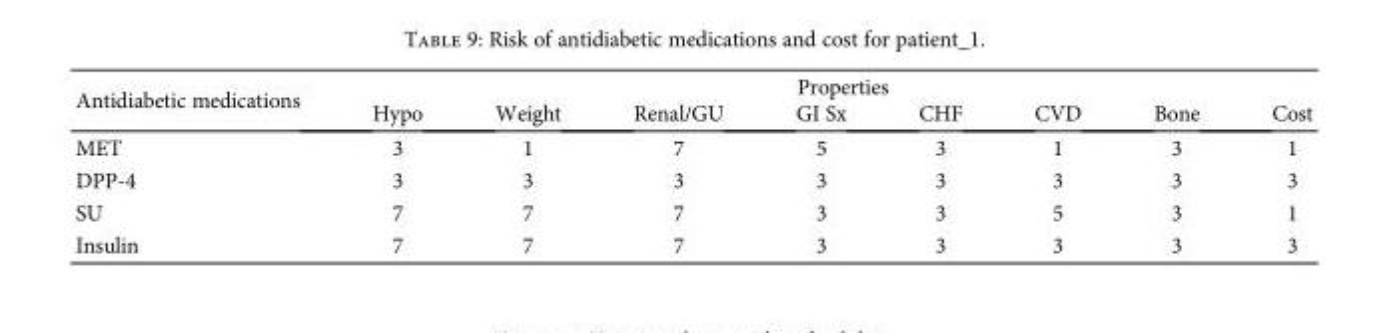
<table><thead><tr><td rowspan="2">Antidiabetic medications</td><td colspan="8">Properties</td></tr><tr><td>Hypo</td><td>Weight</td><td>Renal/GU</td><td>GI Sx</td><td>CHF</td><td>CVD</td><td>Bone</td><td>Cost</td></tr></thead><tbody><tr><td>MET</td><td>3</td><td>1</td><td>7</td><td>5</td><td>3</td><td>1</td><td>3</td><td>1</td></tr><tr><td>DPP-4</td><td>3</td><td>3</td><td>3</td><td>3</td><td>3</td><td>3</td><td>3</td><td>3</td></tr><tr><td>SU</td><td>7</td><td>7</td><td>7</td><td>3</td><td>3</td><td>5</td><td>3</td><td>1</td></tr><tr><td>Insulin</td><td>7</td><td>7</td><td>7</td><td>3</td><td>3</td><td>3</td><td>3</td><td>3</td></tr></tbody></table>